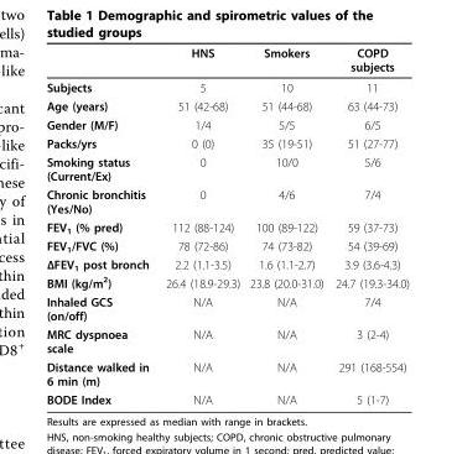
<table><thead><tr><td></td><td>HNS</td><td>Smokers</td><td>COPD subjects</td></tr></thead><tbody><tr><td>Subjects</td><td>5</td><td>10</td><td>11</td></tr><tr><td>Age (years)</td><td>51 (42-68)</td><td>51 (44-68)</td><td>63 (44-73)</td></tr><tr><td>Gender (M/F)</td><td>1/4</td><td>5/5</td><td>6/5</td></tr><tr><td>Packs/yrs</td><td>0 (0)</td><td>35 (19-51)</td><td>51 (27-77)</td></tr><tr><td>Smoking status (Current/Ex)</td><td>0</td><td>10/0</td><td>5/6</td></tr><tr><td>Chronic bronchitis (Yes/No)</td><td>0</td><td>4/6</td><td>7/4</td></tr><tr><td>FEV<sub>1</sub> (% pred)</td><td>112 (88-124)</td><td>100 (89-122)</td><td>59 (37-73)</td></tr><tr><td>FEV<sub>1</sub>/FVC (%)</td><td>78 (72-86)</td><td>74 (73-82)</td><td>54 (39-69)</td></tr><tr><td>ΔFEV<sub>1</sub> post bronch</td><td>2.2 (1.1-3.5)</td><td>1.6 (1.1-2.7)</td><td>3.9 (3.6-4.3)</td></tr><tr><td>BMI (kg/m<sup>2</sup>)</td><td>26.4 (18.9-29.3)</td><td>23.8 (20.0-31.0)</td><td>24.7 (19.3-34.0)</td></tr><tr><td>Inhaled GCS (on/off)</td><td>N/A</td><td>N/A</td><td>7/4</td></tr><tr><td>MRC dyspnoea scale</td><td>N/A</td><td>N/A</td><td>3 (2-4)</td></tr><tr><td>Distance walked in 6 min (m)</td><td>N/A</td><td>N/A</td><td>291 (168-554)</td></tr><tr><td>BODE Index</td><td>N/A</td><td>N/A</td><td>5 (1-7)</td></tr></tbody></table>